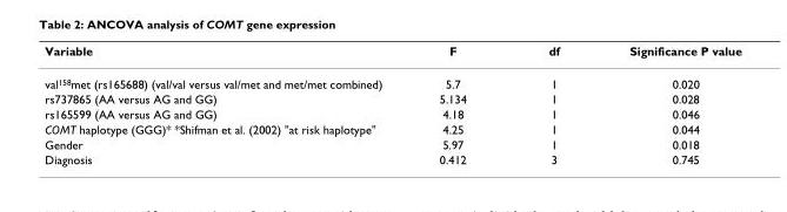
<table><thead><tr><td>Variable</td><td>F</td><td>df</td><td>Significance P value</td></tr></thead><tbody><tr><td>val<sup>158</sup>met (rs165688) (val/val versus val/met and met/met combined)</td><td>5.7</td><td>1</td><td>0.020</td></tr><tr><td>rs737865 (AA versus AG and GG)</td><td>5.134</td><td>1</td><td>0.028</td></tr><tr><td>rs165599 (AA versus AG and GG)</td><td>4.18</td><td>1</td><td>0.046</td></tr><tr><td>COMT haplotype (GGG)* *Shifman et al. (2002) &quot;at risk haplotype&quot;</td><td>4.25</td><td>1</td><td>0.044</td></tr><tr><td>Gender</td><td>5.97</td><td>1</td><td>0.018</td></tr><tr><td>Diagnosis</td><td>0.412</td><td>3</td><td>0.745</td></tr></tbody></table>